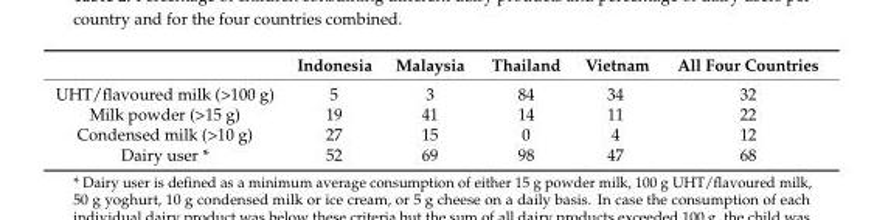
<table><thead><tr><td></td><td>Indonesia</td><td>Malaysia</td><td>Thailand</td><td>Vietnam</td><td>All Four Countries</td></tr></thead><tbody><tr><td>UHT/flavoured milk (&gt;100 g)</td><td>5</td><td>3</td><td>84</td><td>34</td><td>32</td></tr><tr><td>Milk powder (&gt;15 g)</td><td>19</td><td>41</td><td>14</td><td>11</td><td>22</td></tr><tr><td>Condensed milk (&gt;10 g)</td><td>27</td><td>15</td><td>0</td><td>4</td><td>12</td></tr><tr><td>Dairy user *</td><td>52</td><td>69</td><td>98</td><td>47</td><td>68</td></tr></tbody></table>